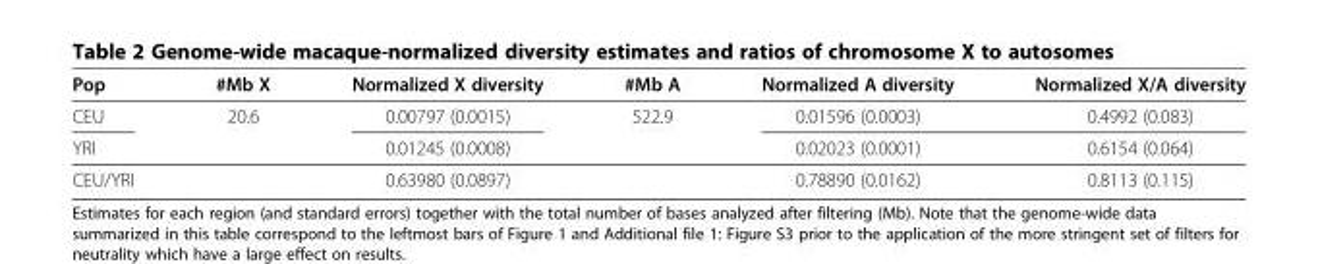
<table><thead><tr><td>Pop</td><td>#Mb X</td><td>Normalized X diversity</td><td>#Mb A</td><td>Normalized A diversity</td><td>Normalized X/A diversity</td></tr></thead><tbody><tr><td>CEU</td><td>20.6</td><td>0.00797 (0.0015)</td><td>522.9</td><td>0.01596 (0.0003)</td><td>0.4992 (0.083)</td></tr><tr><td>YRI</td><td></td><td>0.01245 (0.0008)</td><td></td><td>0.02023 (0.0001)</td><td>0.6154 (0.064)</td></tr><tr><td>CEU/YRI</td><td></td><td>0.63980 (0.0897)</td><td></td><td>0.78890 (0.0162)</td><td>0.8113 (0.115)</td></tr></tbody></table>